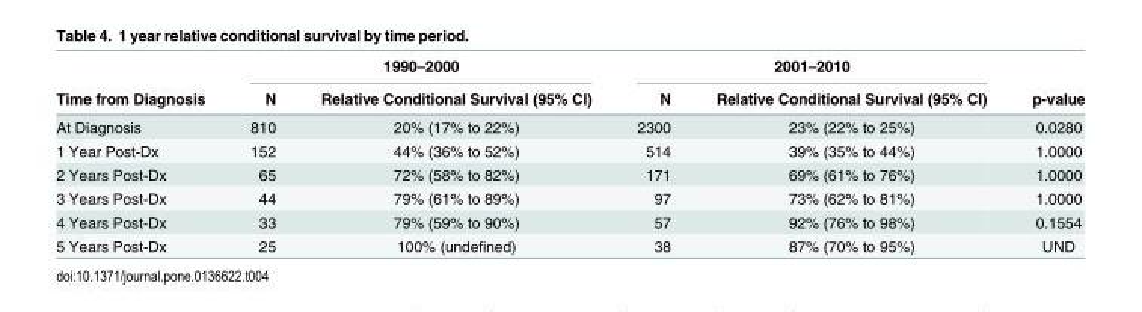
<table><thead><tr><td rowspan="2">Time from Diagnosis</td><td colspan="2">1990–2000</td><td colspan="2">2001–2010</td><td rowspan="2">p-value</td></tr><tr><td>N</td><td>Relative Conditional Survival (95% CI)</td><td>N</td><td>Relative Conditional Survival (95% CI)</td></tr></thead><tbody><tr><td>At Diagnosis</td><td>810</td><td>20% (17% to 22%)</td><td>2300</td><td>23% (22% to 25%)</td><td>0.0280</td></tr><tr><td>1 Year Post-Dx</td><td>152</td><td>44% (36% to 52%)</td><td>514</td><td>39% (35% to 44%)</td><td>1.0000</td></tr><tr><td>2 Years Post-Dx</td><td>65</td><td>72% (58% to 82%)</td><td>171</td><td>69% (61% to 76%)</td><td>1.0000</td></tr><tr><td>3 Years Post-Dx</td><td>44</td><td>79% (61% to 89%)</td><td>97</td><td>73% (62% to 81%)</td><td>1.0000</td></tr><tr><td>4 Years Post-Dx</td><td>33</td><td>79% (59% to 90%)</td><td>57</td><td>92% (76% to 98%)</td><td>0.1554</td></tr><tr><td>5 Years Post-Dx</td><td>25</td><td>100% (undefined)</td><td>38</td><td>87% (70% to 95%)</td><td>UND</td></tr></tbody></table>